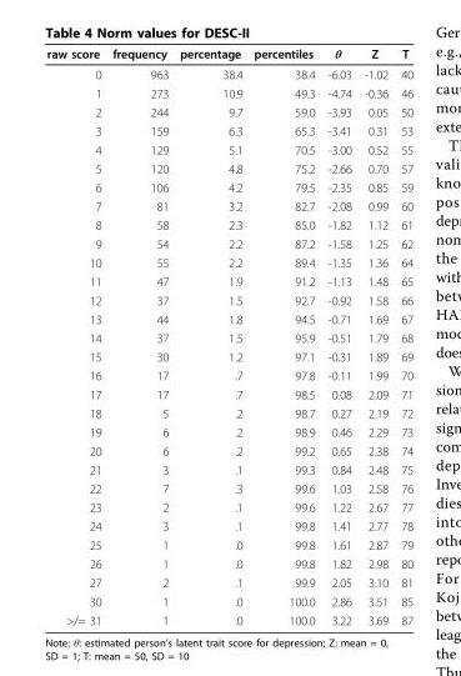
<table><thead><tr><td>raw score</td><td>frequency</td><td>percentage</td><td>percentiles</td><td>θ</td><td>Z</td><td>T</td></tr></thead><tbody><tr><td>0</td><td>963</td><td>38.4</td><td>38.4</td><td>-6.03</td><td>-1.02</td><td>40</td></tr><tr><td>1</td><td>273</td><td>10.9</td><td>49.3</td><td>-4.74</td><td>-0.36</td><td>46</td></tr><tr><td>2</td><td>244</td><td>9.7</td><td>59.0</td><td>-3.93</td><td>0.05</td><td>50</td></tr><tr><td>3</td><td>159</td><td>6.3</td><td>65.3</td><td>-3.41</td><td>0.31</td><td>53</td></tr><tr><td>4</td><td>129</td><td>5.1</td><td>70.5</td><td>-3.00</td><td>0.52</td><td>55</td></tr><tr><td>5</td><td>120</td><td>4.8</td><td>75.2</td><td>-2.66</td><td>0.70</td><td>57</td></tr><tr><td>6</td><td>106</td><td>4.2</td><td>79.5</td><td>-2.35</td><td>0.85</td><td>59</td></tr><tr><td>7</td><td>81</td><td>3.2</td><td>82.7</td><td>-2.08</td><td>0.99</td><td>60</td></tr><tr><td>8</td><td>58</td><td>2.3</td><td>85.0</td><td>-1.82</td><td>1.12</td><td>61</td></tr><tr><td>9</td><td>54</td><td>2.2</td><td>87.2</td><td>-1.58</td><td>1.25</td><td>62</td></tr><tr><td>10</td><td>55</td><td>2.2</td><td>89.4</td><td>-1.35</td><td>1.36</td><td>64</td></tr><tr><td>11</td><td>47</td><td>1.9</td><td>91.2</td><td>-1.13</td><td>1.48</td><td>65</td></tr><tr><td>12</td><td>37</td><td>1.5</td><td>92.7</td><td>-0.92</td><td>1.58</td><td>66</td></tr><tr><td>13</td><td>44</td><td>1.8</td><td>94.5</td><td>-0.71</td><td>1.69</td><td>67</td></tr><tr><td>14</td><td>37</td><td>1.5</td><td>95.9</td><td>-0.51</td><td>1.79</td><td>68</td></tr><tr><td>15</td><td>30</td><td>1.2</td><td>97.1</td><td>-0.31</td><td>1.89</td><td>69</td></tr><tr><td>16</td><td>17</td><td>.7</td><td>97.8</td><td>-0.11</td><td>1.99</td><td>70</td></tr><tr><td>17</td><td>17</td><td>.7</td><td>98.5</td><td>0.08</td><td>2.09</td><td>71</td></tr><tr><td>18</td><td>5</td><td>.2</td><td>98.7</td><td>0.27</td><td>2.19</td><td>72</td></tr><tr><td>19</td><td>6</td><td>.2</td><td>98.9</td><td>0.46</td><td>2.29</td><td>73</td></tr><tr><td>20</td><td>6</td><td>.2</td><td>99.2</td><td>0.65</td><td>2.38</td><td>74</td></tr><tr><td>21</td><td>3</td><td>.1</td><td>99.3</td><td>0.84</td><td>2.48</td><td>75</td></tr><tr><td>22</td><td>7</td><td>.3</td><td>99.6</td><td>1.03</td><td>2.58</td><td>76</td></tr><tr><td>23</td><td>2</td><td>.1</td><td>99.6</td><td>1.22</td><td>2.67</td><td>77</td></tr><tr><td>24</td><td>3</td><td>.1</td><td>99.8</td><td>1.41</td><td>2.77</td><td>78</td></tr><tr><td>25</td><td>1</td><td>.0</td><td>99.8</td><td>1.61</td><td>2.87</td><td>79</td></tr><tr><td>26</td><td>1</td><td>.0</td><td>99.8</td><td>1.82</td><td>2.98</td><td>80</td></tr><tr><td>27</td><td>2</td><td>.1</td><td>99.9</td><td>2.05</td><td>3.10</td><td>81</td></tr><tr><td>30</td><td>1</td><td>.0</td><td>100.0</td><td>2.86</td><td>3.51</td><td>85</td></tr><tr><td>&gt;/= 31</td><td>1</td><td>.0</td><td>100.0</td><td>3.22</td><td>3.69</td><td>87</td></tr></tbody></table>